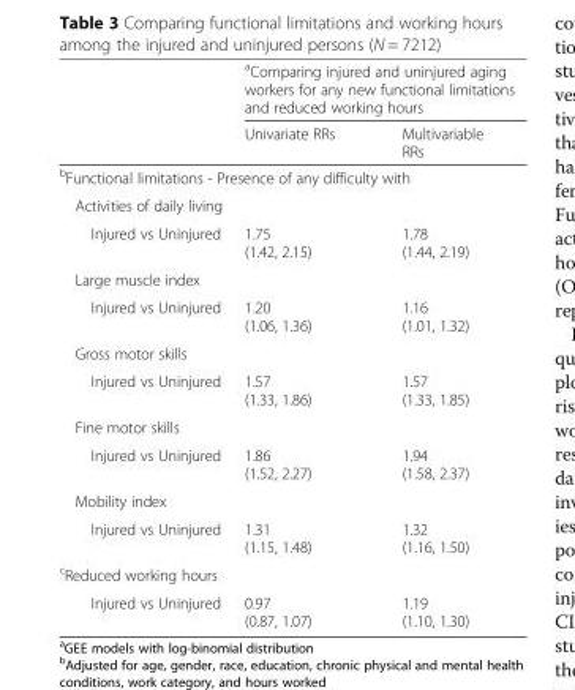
<table><thead><tr><td rowspan="2"></td><td colspan="2"><sup>a</sup>Comparing injured and uninjured aging workers for any new functional limitations and reduced working hours</td></tr><tr><td>Univariate RRs</td><td>Multivariable RRs</td></tr></thead><tbody><tr><td colspan="3"><sup>b</sup>Functional limitations - Presence of any difficulty with</td></tr><tr><td colspan="3">Activities of daily living</td></tr><tr><td>Injured vs Uninjured</td><td>1.75 (1.42, 2.15)</td><td>1.78 (1.44, 2.19)</td></tr><tr><td colspan="3">Large muscle index</td></tr><tr><td>Injured vs Uninjured</td><td>1.20 (1.06, 1.36)</td><td>1.16 (1.01, 1.32)</td></tr><tr><td colspan="3">Gross motor skills</td></tr><tr><td>Injured vs Uninjured</td><td>1.57 (1.33, 1.86)</td><td>1.57 (1.33, 1.85)</td></tr><tr><td colspan="3">Fine motor skills</td></tr><tr><td>Injured vs Uninjured</td><td>1.86 (1.52, 2.27)</td><td>1.94 (1.58, 2.37)</td></tr><tr><td colspan="3">Mobility index</td></tr><tr><td>Injured vs Uninjured</td><td>1.31 (1.15, 1.48)</td><td>1.32 (1.16, 1.50)</td></tr><tr><td colspan="3"><sup>c</sup>Reduced working hours</td></tr><tr><td>Injured vs Uninjured</td><td>0.97 (0.87, 1.07)</td><td>1.19 (1.10, 1.30)</td></tr></tbody></table>